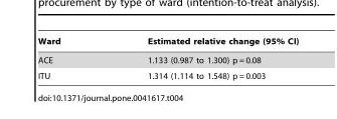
<table><thead><tr><td>Ward</td><td>Estimated relative change (95% CI)</td></tr></thead><tbody><tr><td>ACE</td><td>1.133 (0.987 to 1.300) p = 0.08</td></tr><tr><td>ITU</td><td>1.314 (1.114 to 1.548) p = 0.003</td></tr></tbody></table>